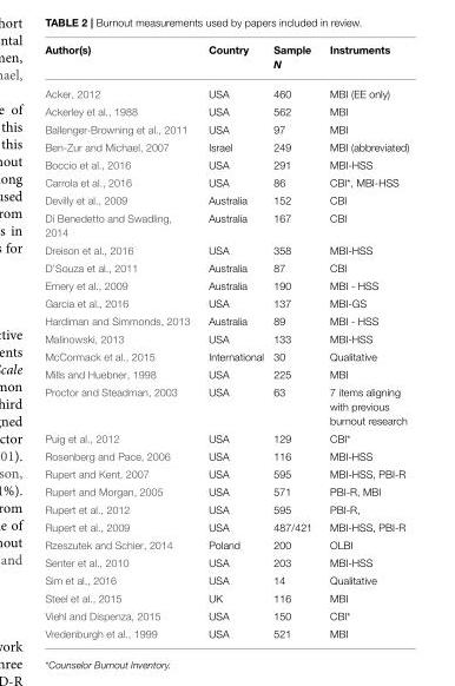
<table><thead><tr><td>Author(s)</td><td>Country</td><td>Sample N</td><td>Instruments</td></tr></thead><tbody><tr><td>Acker, 2012</td><td>USA</td><td>460</td><td>MBI (EE only)</td></tr><tr><td>Ackerley et al., 1988</td><td>USA</td><td>562</td><td>MBI</td></tr><tr><td>Ballenger-Browning et al., 2011</td><td>USA</td><td>97</td><td>MBI</td></tr><tr><td>Ben-Zur and Michael, 2007</td><td>Israel</td><td>249</td><td>MBI (abbreviated)</td></tr><tr><td>Boccio et al., 2016</td><td>USA</td><td>291</td><td>MBI-HSS</td></tr><tr><td>Carrola et al., 2016</td><td>USA</td><td>86</td><td>CBI*, MBI-HSS</td></tr><tr><td>Devilly et al., 2009</td><td>Australia</td><td>152</td><td>CBI</td></tr><tr><td>Di Benedetto and Swadling, 2014</td><td>Australia</td><td>167</td><td>CBI</td></tr><tr><td>Dreison et al., 2016</td><td>USA</td><td>358</td><td>MBI-HSS</td></tr><tr><td>D’Souza et al., 2011</td><td>Australia</td><td>87</td><td>CBI</td></tr><tr><td>Emery et al., 2009</td><td>Australia</td><td>190</td><td>MBI - HSS</td></tr><tr><td>Garcia et al., 2016</td><td>USA</td><td>137</td><td>MBI-GS</td></tr><tr><td>Hardiman and Simmonds, 2013</td><td>Australia</td><td>89</td><td>MBI - HSS</td></tr><tr><td>Malinowski, 2013</td><td>USA</td><td>133</td><td>MBI-HSS</td></tr><tr><td>McCormack et al., 2015</td><td>International</td><td>30</td><td>Qualitative</td></tr><tr><td>Mills and Huebner, 1998</td><td>USA</td><td>225</td><td>MBI</td></tr><tr><td>Proctor and Steadman, 2003</td><td>USA</td><td>63</td><td>7 items aligning with previous burnout research</td></tr><tr><td>Puig et al., 2012</td><td>USA</td><td>129</td><td>CBI*</td></tr><tr><td>Rosenberg and Pace, 2006</td><td>USA</td><td>116</td><td>MBI-HSS</td></tr><tr><td>Rupert and Kent, 2007</td><td>USA</td><td>595</td><td>MBI-HSS, PBI-R</td></tr><tr><td>Rupert and Morgan, 2005</td><td>USA</td><td>571</td><td>PBI-R, MBI</td></tr><tr><td>Rupert et al., 2012</td><td>USA</td><td>595</td><td>PBI-R,</td></tr><tr><td>Rupert et al., 2009</td><td>USA</td><td>487/421</td><td>MBI-HSS, PBI-R</td></tr><tr><td>Rzeszutek and Schier, 2014</td><td>Poland</td><td>200</td><td>OLBI</td></tr><tr><td>Senter et al., 2010</td><td>USA</td><td>203</td><td>MBI-HSS</td></tr><tr><td>Sim et al., 2016</td><td>USA</td><td>14</td><td>Qualitative</td></tr><tr><td>Steel et al., 2015</td><td>UK</td><td>116</td><td>MBI</td></tr><tr><td>Viehl and Dispenza, 2015</td><td>USA</td><td>150</td><td>CBI*</td></tr><tr><td>Vredenburgh et al., 1999</td><td>USA</td><td>521</td><td>MBI</td></tr></tbody></table>